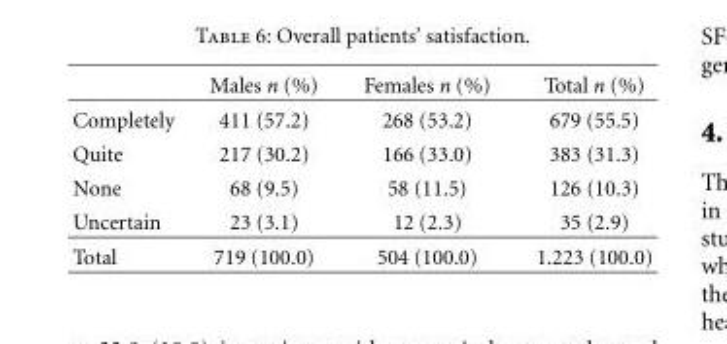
<table><thead><tr><td></td><td>Males n (%)</td><td>Females n (%)</td><td>Total n (%)</td></tr></thead><tbody><tr><td>Completely</td><td>411 (57.2)</td><td>268 (53.2)</td><td>679 (55.5)</td></tr><tr><td>Quite</td><td>217 (30.2)</td><td>166 (33.0)</td><td>383 (31.3)</td></tr><tr><td>None</td><td>68 (9.5)</td><td>58 (11.5)</td><td>126 (10.3)</td></tr><tr><td>Uncertain</td><td>23 (3.1)</td><td>12 (2.3)</td><td>35 (2.9)</td></tr><tr><td>Total</td><td>719 (100.0)</td><td>504 (100.0)</td><td>1.223 (100.0)</td></tr></tbody></table>